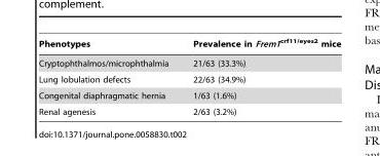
<table><thead><tr><td>Phenotypes</td><td>Prevalence in Frem1<sup>crf11/eyes2</sup> mice</td></tr></thead><tbody><tr><td>Cryptophthalmos/microphthalmia</td><td>21/63 (33.3%)</td></tr><tr><td>Lung lobulation defects</td><td>22/63 (34.9%)</td></tr><tr><td>Congenital diaphragmatic hernia</td><td>1/63 (1.6%)</td></tr><tr><td>Renal agenesis</td><td>2/63 (3.2%)</td></tr></tbody></table>